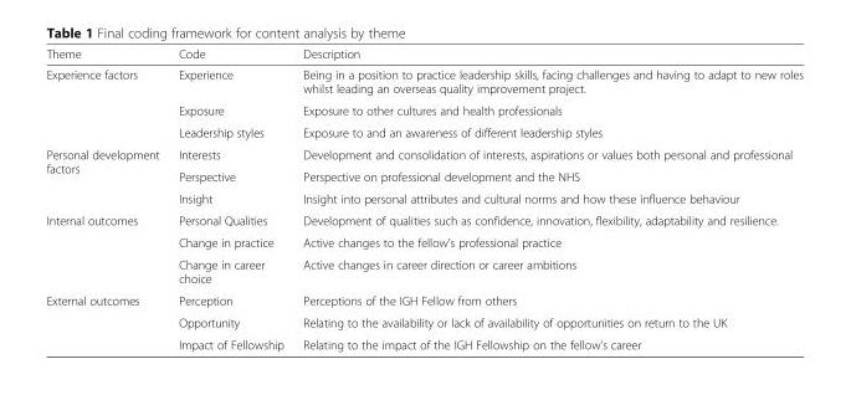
<table><thead><tr><td>Theme</td><td>Code</td><td>Description</td></tr></thead><tbody><tr><td rowspan="3">Experience factors</td><td>Experience</td><td>Being in a position to practice leadership skills, facing challenges and having to adapt to new roles whilst leading an overseas quality improvement project.</td></tr><tr><td>Exposure</td><td>Exposure to other cultures and health professionals</td></tr><tr><td>Leadership styles</td><td>Exposure to and an awareness of different leadership styles</td></tr><tr><td rowspan="3">Personal development factors</td><td>Interests</td><td>Development and consolidation of interests, aspirations or values both personal and professional</td></tr><tr><td>Perspective</td><td>Perspective on professional development and the NHS</td></tr><tr><td>Insight</td><td>Insight into personal attributes and cultural norms and how these influence behaviour</td></tr><tr><td rowspan="3">Internal outcomes</td><td>Personal Qualities</td><td>Development of qualities such as confidence, innovation, flexibility, adaptability and resilience.</td></tr><tr><td>Change in practice</td><td>Active changes to the fellow’s professional practice</td></tr><tr><td>Change in career choice</td><td>Active changes in career direction or career ambitions</td></tr><tr><td rowspan="3">External outcomes</td><td>Perception</td><td>Perceptions of the IGH Fellow from others</td></tr><tr><td>Opportunity</td><td>Relating to the availability or lack of availability of opportunities on return to the UK</td></tr><tr><td>Impact of Fellowship</td><td>Relating to the impact of the IGH Fellowship on the fellow’s career</td></tr></tbody></table>